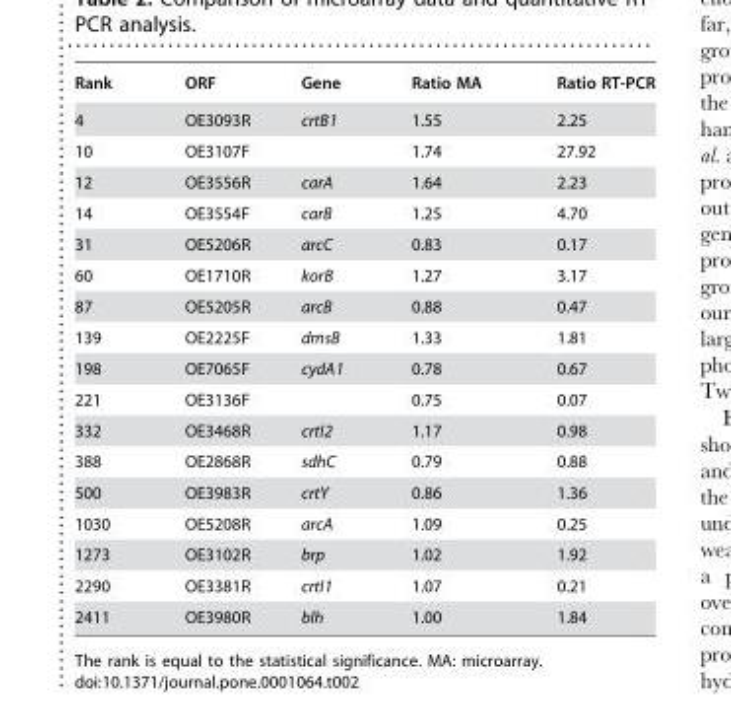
<table><thead><tr><td>Rank</td><td>ORF</td><td>Gene</td><td>Ratio MA</td><td>Ratio RT-PCR</td></tr></thead><tbody><tr><td>4</td><td>OE3093R</td><td>crtB1</td><td>1.55</td><td>2.25</td></tr><tr><td>10</td><td>OE3107F</td><td></td><td>1.74</td><td>27.92</td></tr><tr><td>12</td><td>OE3556R</td><td>carA</td><td>1.64</td><td>2.23</td></tr><tr><td>14</td><td>OE3554F</td><td>carB</td><td>1.25</td><td>4.70</td></tr><tr><td>31</td><td>OE5206R</td><td>arcC</td><td>0.83</td><td>0.17</td></tr><tr><td>60</td><td>OE1710R</td><td>korB</td><td>1.27</td><td>3.17</td></tr><tr><td>87</td><td>OE5205R</td><td>arcB</td><td>0.88</td><td>0.47</td></tr><tr><td>139</td><td>OE2225F</td><td>dmsB</td><td>1.33</td><td>1.81</td></tr><tr><td>198</td><td>OE7065F</td><td>cydA1</td><td>0.78</td><td>0.67</td></tr><tr><td>221</td><td>OE3136F</td><td></td><td>0.75</td><td>0.07</td></tr><tr><td>332</td><td>OE3468R</td><td>crtI2</td><td>1.17</td><td>0.98</td></tr><tr><td>388</td><td>OE2868R</td><td>sdhC</td><td>0.79</td><td>0.88</td></tr><tr><td>500</td><td>OE3983R</td><td>crtY</td><td>0.86</td><td>1.36</td></tr><tr><td>1030</td><td>OE5208R</td><td>arcA</td><td>1.09</td><td>0.25</td></tr><tr><td>1273</td><td>OE3102R</td><td>brp</td><td>1.02</td><td>1.92</td></tr><tr><td>2290</td><td>OE3381R</td><td>crtI1</td><td>1.07</td><td>0.21</td></tr><tr><td>2411</td><td>OE3980R</td><td>blh</td><td>1.00</td><td>1.84</td></tr></tbody></table>